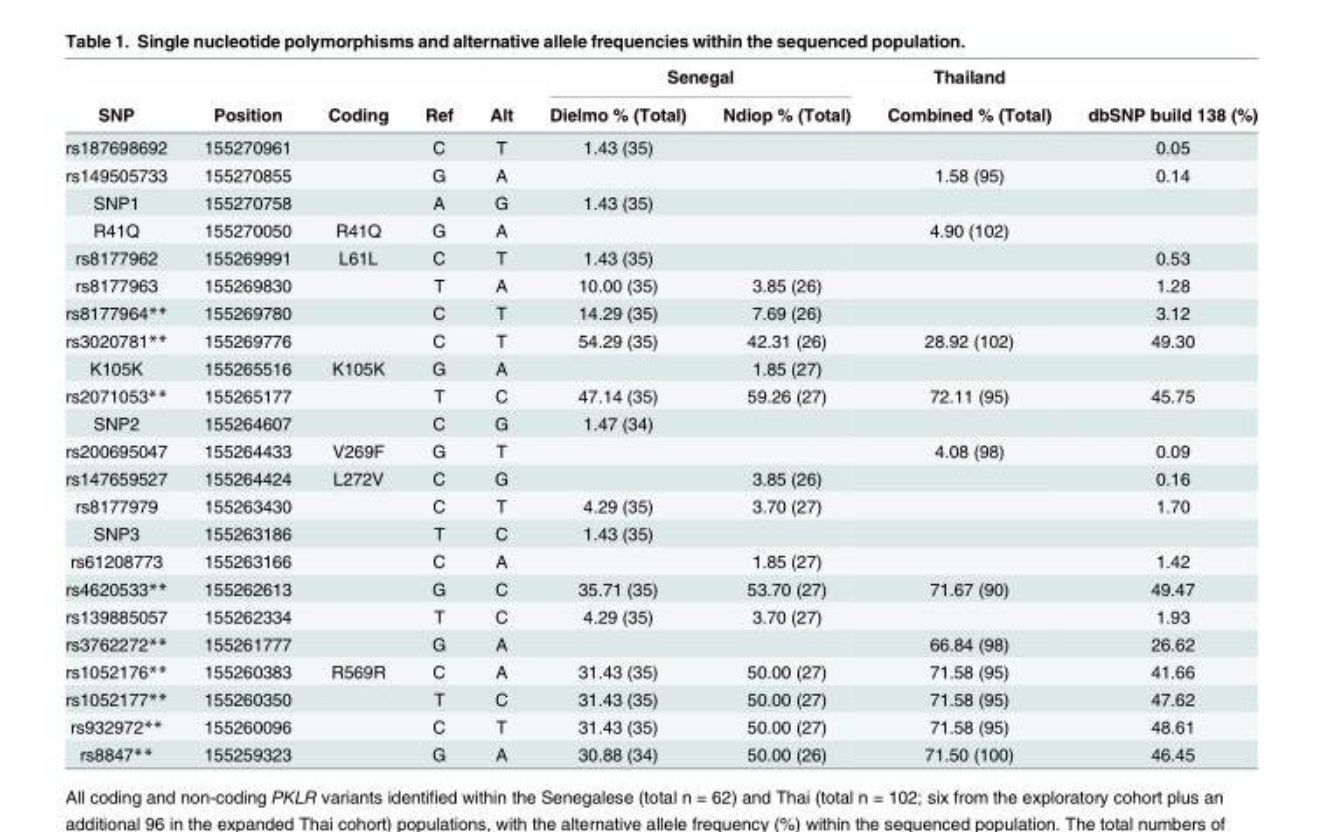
<table><thead><tr><td rowspan="2">SNP</td><td rowspan="2">Position</td><td rowspan="2">Coding</td><td rowspan="2">Ref</td><td rowspan="2">Alt</td><td colspan="2">Senegal</td><td rowspan="2">Thailand Combined % (Total)</td><td rowspan="2">dbSNP build 138 (%)</td></tr><tr><td>Dielmo % (Total)</td><td>Ndiop % (Total)</td></tr></thead><tbody><tr><td>rs187698692</td><td>155270961</td><td></td><td>C</td><td>T</td><td>1.43 (35)</td><td></td><td></td><td>0.05</td></tr><tr><td>rs149505733</td><td>155270855</td><td></td><td>G</td><td>A</td><td></td><td></td><td>1.58 (95)</td><td>0.14</td></tr><tr><td>SNP1</td><td>155270758</td><td></td><td>A</td><td>G</td><td>1.43 (35)</td><td></td><td></td><td></td></tr><tr><td>R41Q</td><td>155270050</td><td>R41Q</td><td>G</td><td>A</td><td></td><td></td><td>4.90 (102)</td><td></td></tr><tr><td>rs8177962</td><td>155269991</td><td>L61L</td><td>C</td><td>T</td><td>1.43 (35)</td><td></td><td></td><td>0.53</td></tr><tr><td>rs8177963</td><td>155269830</td><td></td><td>T</td><td>A</td><td>10.00 (35)</td><td>3.85 (26)</td><td></td><td>1.28</td></tr><tr><td>rs8177964**</td><td>155269780</td><td></td><td>C</td><td>T</td><td>14.29 (35)</td><td>7.69 (26)</td><td></td><td>3.12</td></tr><tr><td>rs3020781**</td><td>155269776</td><td></td><td>C</td><td>T</td><td>54.29 (35)</td><td>42.31 (26)</td><td>28.92 (102)</td><td>49.30</td></tr><tr><td>K105K</td><td>155265516</td><td>K105K</td><td>G</td><td>A</td><td></td><td>1.85 (27)</td><td></td><td></td></tr><tr><td>rs2071053**</td><td>155265177</td><td></td><td>T</td><td>C</td><td>47.14 (35)</td><td>59.26 (27)</td><td>72.11 (95)</td><td>45.75</td></tr><tr><td>SNP2</td><td>155264607</td><td></td><td>C</td><td>G</td><td>1.47 (34)</td><td></td><td></td><td></td></tr><tr><td>rs200695047</td><td>155264433</td><td>V269F</td><td>G</td><td>T</td><td></td><td></td><td>4.08 (98)</td><td>0.09</td></tr><tr><td>rs147659527</td><td>155264424</td><td>L272V</td><td>C</td><td>G</td><td></td><td>3.85 (26)</td><td></td><td>0.16</td></tr><tr><td>rs8177979</td><td>155263430</td><td></td><td>C</td><td>T</td><td>4.29 (35)</td><td>3.70 (27)</td><td></td><td>1.70</td></tr><tr><td>SNP3</td><td>155263186</td><td></td><td>T</td><td>C</td><td>1.43 (35)</td><td></td><td></td><td></td></tr><tr><td>rs61208773</td><td>155263166</td><td></td><td>C</td><td>A</td><td></td><td>1.85 (27)</td><td></td><td>1.42</td></tr><tr><td>rs4620533**</td><td>155262613</td><td></td><td>G</td><td>C</td><td>35.71 (35)</td><td>53.70 (27)</td><td>71.67 (90)</td><td>49.47</td></tr><tr><td>rs139885057</td><td>155262334</td><td></td><td>T</td><td>C</td><td>4.29 (35)</td><td>3.70 (27)</td><td></td><td>1.93</td></tr><tr><td>rs3762272**</td><td>155261777</td><td></td><td>G</td><td>A</td><td></td><td></td><td>66.84 (98)</td><td>26.62</td></tr><tr><td>rs1052176**</td><td>155260383</td><td>R569R</td><td>C</td><td>A</td><td>31.43 (35)</td><td>50.00 (27)</td><td>71.58 (95)</td><td>41.66</td></tr><tr><td>rs1052177**</td><td>155260350</td><td></td><td>T</td><td>C</td><td>31.43 (35)</td><td>50.00 (27)</td><td>71.58 (95)</td><td>47.62</td></tr><tr><td>rs932972**</td><td>155260096</td><td></td><td>C</td><td>T</td><td>31.43 (35)</td><td>50.00 (27)</td><td>71.58 (95)</td><td>48.61</td></tr><tr><td>rs8847**</td><td>155259323</td><td></td><td>G</td><td>A</td><td>30.88 (34)</td><td>50.00 (26)</td><td>71.50 (100)</td><td>46.45</td></tr></tbody></table>